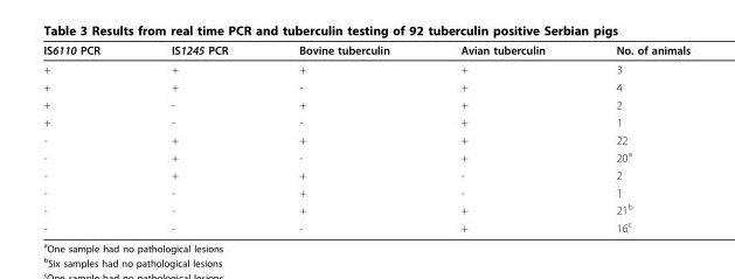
<table><thead><tr><td>IS6110 PCR</td><td>IS1245 PCR</td><td>Bovine tuberculin</td><td>Avian tuberculin</td><td>No. of animals</td></tr></thead><tbody><tr><td>+</td><td>+</td><td>+</td><td>+</td><td>3</td></tr><tr><td>+</td><td>+</td><td>-</td><td>+</td><td>4</td></tr><tr><td>+</td><td>-</td><td>+</td><td>+</td><td>2</td></tr><tr><td>+</td><td>-</td><td>-</td><td>+</td><td>1</td></tr><tr><td>-</td><td>+</td><td>+</td><td>+</td><td>22</td></tr><tr><td>-</td><td>+</td><td>-</td><td>+</td><td>20<sup>a</sup></td></tr><tr><td>-</td><td>+</td><td>+</td><td>-</td><td>2</td></tr><tr><td>-</td><td>-</td><td>+</td><td>-</td><td>1</td></tr><tr><td>-</td><td>-</td><td>+</td><td>+</td><td>21<sup>b</sup></td></tr><tr><td>-</td><td>-</td><td>-</td><td>+</td><td>16<sup>c</sup></td></tr></tbody></table>